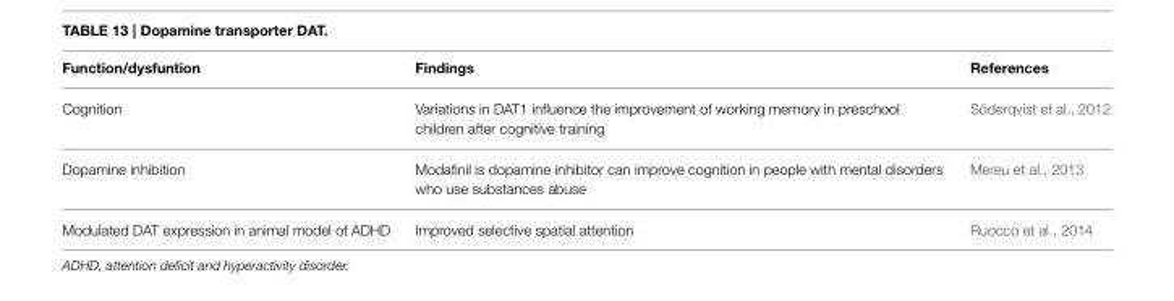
<table><thead><tr><td>Function/dysfuntion</td><td>Findings</td><td>References</td></tr></thead><tbody><tr><td>Cognition</td><td>Variations in DAT1 influence the improvement of working memory in preschool children after cognitive training</td><td>Söderqvist et al., 2012</td></tr><tr><td>Dopamine inhibition</td><td>Modafinil is dopamine inhibitor can improve cognition in people with mental disorders who use substances abuse</td><td>Mereu et al., 2013</td></tr><tr><td>Modulated DAT expression in animal model of ADHD</td><td>Improved selective spatial attention</td><td>Ruocco et al., 2014</td></tr></tbody></table>